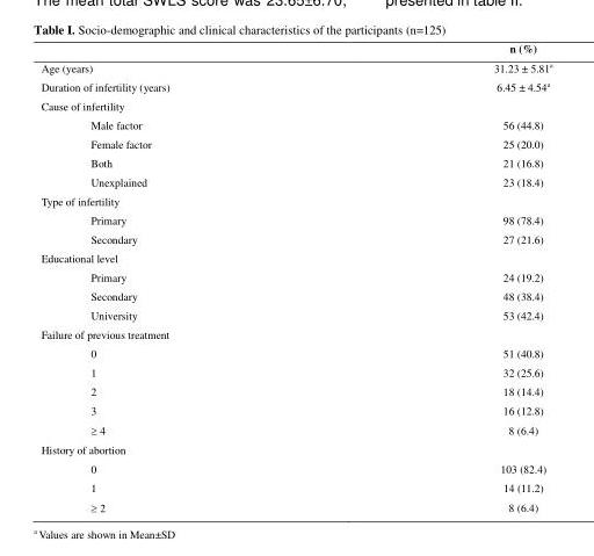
<table><thead><tr><td></td><td>n (%)</td></tr></thead><tbody><tr><td>Age (years)</td><td>31.23 ± 5.81<sup>a</sup></td></tr><tr><td>Duration of infertility (years)</td><td>6.45 ± 4.54<sup>a</sup></td></tr><tr><td colspan="2">Cause of infertility</td></tr><tr><td>Male factor</td><td>56 (44.8)</td></tr><tr><td>Female factor</td><td>25 (20.0)</td></tr><tr><td>Both</td><td>21 (16.8)</td></tr><tr><td>Unexplained</td><td>23 (18.4)</td></tr><tr><td colspan="2">Type of infertility</td></tr><tr><td>Primary</td><td>98 (78.4)</td></tr><tr><td>Secondary</td><td>27 (21.6)</td></tr><tr><td colspan="2">Educational level</td></tr><tr><td>Primary</td><td>24 (19.2)</td></tr><tr><td>Secondary</td><td>48 (38.4)</td></tr><tr><td>University</td><td>53 (42.4)</td></tr><tr><td colspan="2">Failure of previous treatment</td></tr><tr><td>0</td><td>51 (40.8)</td></tr><tr><td>1</td><td>32 (25.6)</td></tr><tr><td>2</td><td>18 (14.4)</td></tr><tr><td>3</td><td>16 (12.8)</td></tr><tr><td> 4</td><td>8 (6.4)</td></tr><tr><td colspan="2">History of abortion</td></tr><tr><td>0</td><td>103 (82.4)</td></tr><tr><td>1</td><td>14 (11.2)</td></tr><tr><td> 2</td><td>8 (6.4)</td></tr></tbody></table>